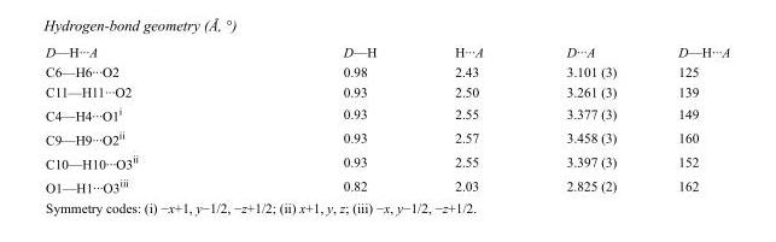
<table><tbody><tr><td>D—H···A</td><td>D—H</td><td>H···A</td><td>D···A</td><td>D—H···A</td></tr><tr><td>C6—H6···O2</td><td>0.98</td><td>2.43</td><td>3.101 (3)</td><td>125</td></tr><tr><td>C11—H11···O2</td><td>0.93</td><td>2.50</td><td>3.261 (3)</td><td>139</td></tr><tr><td>C4—H4···O1<sup>i</sup></td><td>0.93</td><td>2.55</td><td>3.377 (3)</td><td>149</td></tr><tr><td>C9—H9···O2<sup>ii</sup></td><td>0.93</td><td>2.57</td><td>3.458 (3)</td><td>160</td></tr><tr><td>C10—H10···O3<sup>ii</sup></td><td>0.93</td><td>2.55</td><td>3.397 (3)</td><td>152</td></tr><tr><td>O1—H1···O3<sup>iii</sup></td><td>0.82</td><td>2.03</td><td>2.825 (2)</td><td>162</td></tr></tbody></table>